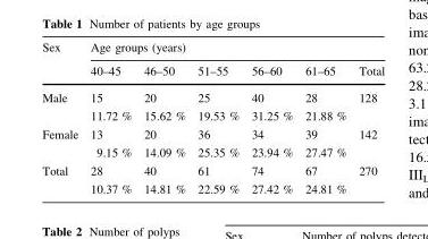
<table><thead><tr><td rowspan="2">Sex</td><td colspan="6">Age groups (years)</td></tr><tr><td>40–45</td><td>46–50</td><td>51–55</td><td>56–60</td><td>61–65</td><td>Total</td></tr></thead><tbody><tr><td rowspan="2">Male</td><td>15</td><td>20</td><td>25</td><td>40</td><td>28</td><td rowspan="2">128</td></tr><tr><td>11.72 %</td><td>15.62 %</td><td>19.53 %</td><td>31.25 %</td><td>21.88 %</td></tr><tr><td rowspan="2">Female</td><td>13</td><td>20</td><td>36</td><td>34</td><td>39</td><td rowspan="2">142</td></tr><tr><td>9.15 %</td><td>14.09 %</td><td>25.35 %</td><td>23.94 %</td><td>27.47 %</td></tr><tr><td rowspan="2">Total</td><td>28</td><td>40</td><td>61</td><td>74</td><td>67</td><td rowspan="2">270</td></tr><tr><td>10.37 %</td><td>14.81 %</td><td>22.59 %</td><td>27.42 %</td><td>24.81 %</td></tr></tbody></table>